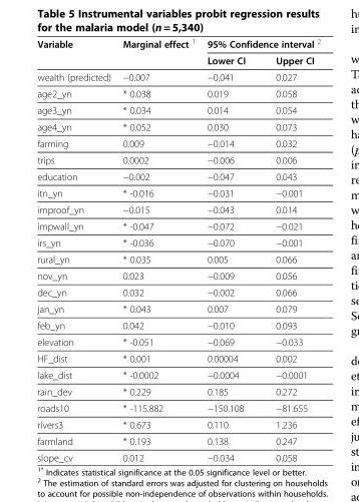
<table><thead><tr><td rowspan="2">Variable</td><td rowspan="2">Marginal effect <sup>1</sup></td><td colspan="2">95% Confidence interval <sup>2</sup></td></tr><tr><td>Lower CI</td><td>Upper CI</td></tr></thead><tbody><tr><td>wealth (predicted)</td><td>−0.007</td><td>−0.041</td><td>0.027</td></tr><tr><td>age2_yn</td><td>* 0.038</td><td>0.019</td><td>0.058</td></tr><tr><td>age3_yn</td><td>* 0.034</td><td>0.014</td><td>0.054</td></tr><tr><td>age4_yn</td><td>* 0.052</td><td>0.030</td><td>0.073</td></tr><tr><td>farming</td><td>0.009</td><td>−0.014</td><td>0.032</td></tr><tr><td>trips</td><td>0.0002</td><td>−0.006</td><td>0.006</td></tr><tr><td>education</td><td>−0.002</td><td>−0.047</td><td>0.043</td></tr><tr><td>itn_yn</td><td>* -0.016</td><td>−0.031</td><td>−0.001</td></tr><tr><td>improof_yn</td><td>−0.015</td><td>−0.043</td><td>0.014</td></tr><tr><td>impwall_yn</td><td>* -0.047</td><td>−0.072</td><td>−0.021</td></tr><tr><td>irs_yn</td><td>* -0.036</td><td>−0.070</td><td>−0.001</td></tr><tr><td>rural_yn</td><td>* 0.035</td><td>0.005</td><td>0.066</td></tr><tr><td>nov_yn</td><td>0.023</td><td>−0.009</td><td>0.056</td></tr><tr><td>dec_yn</td><td>0.032</td><td>−0.002</td><td>0.066</td></tr><tr><td>jan_yn</td><td>* 0.043</td><td>0.007</td><td>0.079</td></tr><tr><td>feb_yn</td><td>0.042</td><td>−0.010</td><td>0.093</td></tr><tr><td>elevation</td><td>* -0.051</td><td>−0.069</td><td>−0.033</td></tr><tr><td>HF_dist</td><td>* 0.001</td><td>0.00004</td><td>0.002</td></tr><tr><td>lake_dist</td><td>* -0.0002</td><td>−0.0004</td><td>−0.0001</td></tr><tr><td>rain_dev</td><td>* 0.229</td><td>0.185</td><td>0.272</td></tr><tr><td>roads10</td><td>* -115.882</td><td>−150.108</td><td>−81.655</td></tr><tr><td>rivers3</td><td>* 0.673</td><td>0.110</td><td>1.236</td></tr><tr><td>farmland</td><td>* 0.193</td><td>0.138</td><td>0.247</td></tr><tr><td>slope_cv</td><td>0.012</td><td>−0.034</td><td>0.058</td></tr></tbody></table>